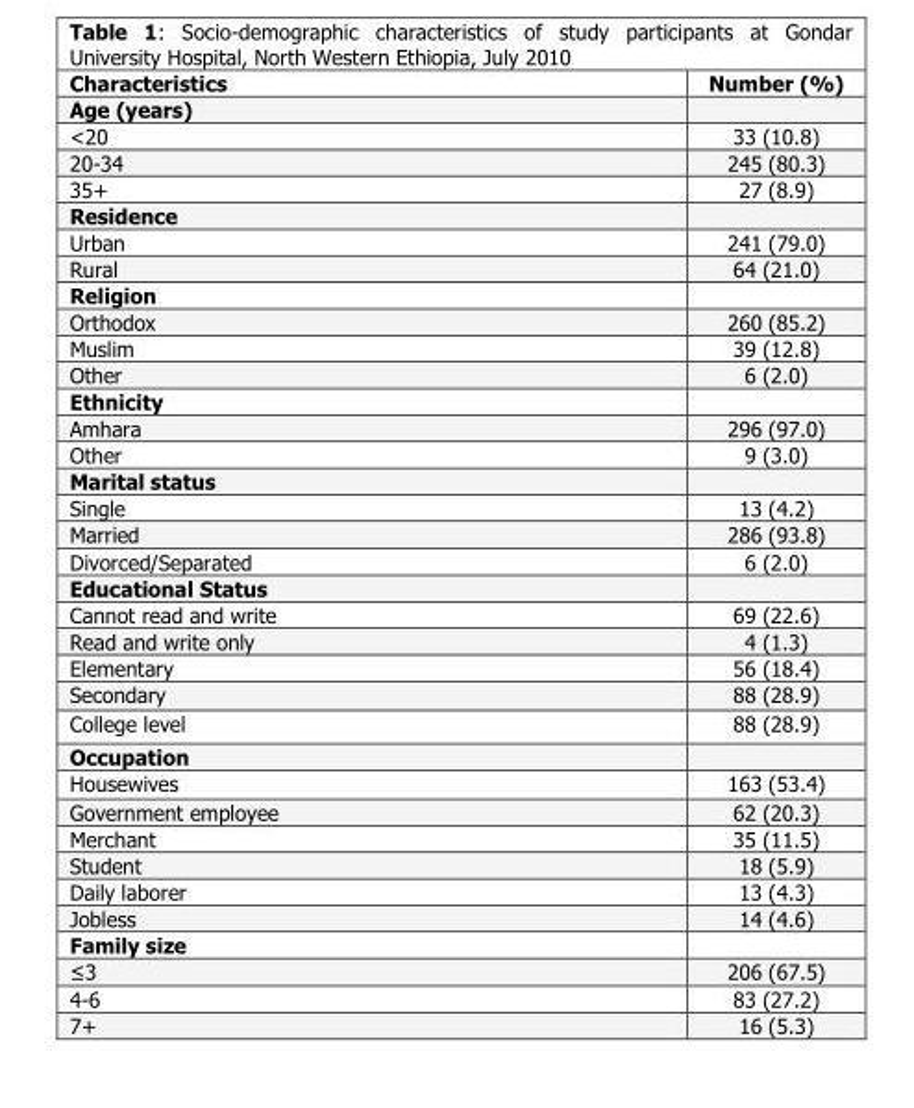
<table><thead><tr><td>Characteristics</td><td>Number (%)</td></tr></thead><tbody><tr><td colspan="2">Age (years)</td></tr><tr><td>&lt;20</td><td>33 (10.8)</td></tr><tr><td>20-34</td><td>245 (80.3)</td></tr><tr><td>35+</td><td>27 (8.9)</td></tr><tr><td colspan="2">Residence</td></tr><tr><td>Urban</td><td>241 (79.0)</td></tr><tr><td>Rural</td><td>64 (21.0)</td></tr><tr><td colspan="2">Religion</td></tr><tr><td>Orthodox</td><td>260 (85.2)</td></tr><tr><td>Muslim</td><td>39 (12.8)</td></tr><tr><td>Other</td><td>6 (2.0)</td></tr><tr><td colspan="2">Ethnicity</td></tr><tr><td>Amhara</td><td>296 (97.0)</td></tr><tr><td>Other</td><td>9 (3.0)</td></tr><tr><td colspan="2">Marital status</td></tr><tr><td>Single</td><td>13 (4.2)</td></tr><tr><td>Married</td><td>286 (93.8)</td></tr><tr><td>Divorced/Separated</td><td>6 (2.0)</td></tr><tr><td colspan="2">Educational Status</td></tr><tr><td>Cannot read and write</td><td>69 (22.6)</td></tr><tr><td>Read and write only</td><td>4 (1.3)</td></tr><tr><td>Elementary</td><td>56 (18.4)</td></tr><tr><td>Secondary</td><td>88 (28.9)</td></tr><tr><td>College level</td><td>88 (28.9)</td></tr><tr><td colspan="2">Occupation</td></tr><tr><td>Housewives</td><td>163 (53.4)</td></tr><tr><td>Government employee</td><td>62 (20.3)</td></tr><tr><td>Merchant</td><td>35 (11.5)</td></tr><tr><td>Student</td><td>18 (5.9)</td></tr><tr><td>Daily laborer</td><td>13 (4.3)</td></tr><tr><td>Jobless</td><td>14 (4.6)</td></tr><tr><td colspan="2">Family size</td></tr><tr><td>≤3</td><td>206 (67.5)</td></tr><tr><td>4-6</td><td>83 (27.2)</td></tr><tr><td>7+</td><td>16 (5.3)</td></tr></tbody></table>